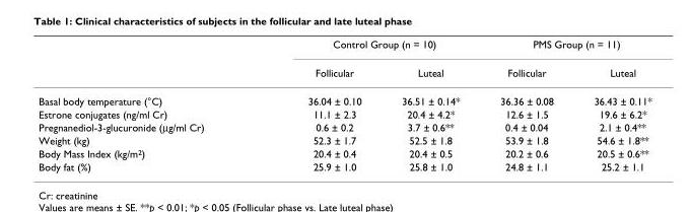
<table><thead><tr><td rowspan="2"></td><td colspan="2">Control Group (n = 10)</td><td colspan="2">PMS Group (n = 11)</td></tr><tr><td>Follicular</td><td>Luteal</td><td>Follicular</td><td>Luteal</td></tr></thead><tbody><tr><td>Basal body temperature (°C)</td><td>36.04 ± 0.10</td><td>36.51 ± 0.14*</td><td>36.36 ± 0.08</td><td>36.43 ± 0.11*</td></tr><tr><td>Estrone conjugates (ng/ml Cr)</td><td>11.1 ± 2.3</td><td>20.4 ± 4.2*</td><td>12.6 ± 1.5</td><td>19.6 ± 6.2*</td></tr><tr><td>Pregnanediol-3-glucuronide (μg/ml Cr)</td><td>0.6 ± 0.2</td><td>3.7 ± 0.6**</td><td>0.4 ± 0.04</td><td>2.1 ± 0.4**</td></tr><tr><td>Weight (kg)</td><td>52.3 ± 1.7</td><td>52.5 ± 1.8</td><td>53.9 ± 1.8</td><td>54.6 ± 1.8**</td></tr><tr><td>Body Mass Index (kg/m<sup>2</sup>)</td><td>20.4 ± 0.4</td><td>20.4 ± 0.5</td><td>20.2 ± 0.6</td><td>20.5 ± 0.6**</td></tr><tr><td>Body fat (%)</td><td>25.9 ± 1.0</td><td>25.8 ± 1.0</td><td>24.8 ± 1.1</td><td>25.2 ± 1.1</td></tr></tbody></table>